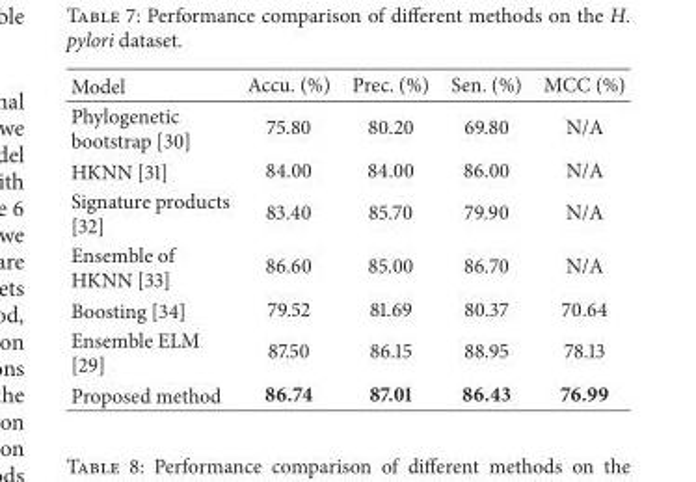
<table><thead><tr><td>Model</td><td>Accu. (%)</td><td>Prec. (%)</td><td>Sen. (%)</td><td>MCC (%)</td></tr></thead><tbody><tr><td>Phylogenetic bootstrap [30]</td><td>75.80</td><td>80.20</td><td>69.80</td><td>N/A</td></tr><tr><td>HKNN [31]</td><td>84.00</td><td>84.00</td><td>86.00</td><td>N/A</td></tr><tr><td>Signature products [32]</td><td>83.40</td><td>85.70</td><td>79.90</td><td>N/A</td></tr><tr><td>Ensemble of HKNN [33]</td><td>86.60</td><td>85.00</td><td>86.70</td><td>N/A</td></tr><tr><td>Boosting [34]</td><td>79.52</td><td>81.69</td><td>80.37</td><td>70.64</td></tr><tr><td>Ensemble ELM [29]</td><td>87.50</td><td>86.15</td><td>88.95</td><td>78.13</td></tr><tr><td>Proposed method</td><td>86.74</td><td>87.01</td><td>86.43</td><td>76.99</td></tr></tbody></table>